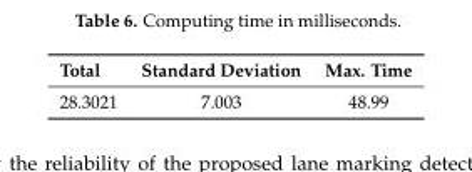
<table><thead><tr><td>Total</td><td>Standard Deviation</td><td>Max. Time</td></tr></thead><tbody><tr><td>28.3021</td><td>7.003</td><td>48.99</td></tr></tbody></table>